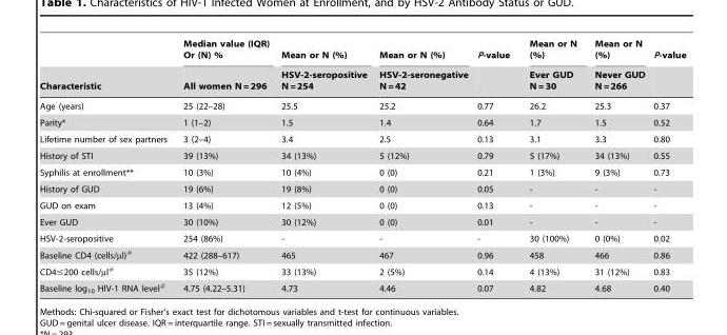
<table><thead><tr><td rowspan="2">Characteristic</td><td rowspan="2">Median value (IQR) Or (N) % All women N = 296</td><td rowspan="2">Mean or N (%) HSV-2-seropositive N = 254</td><td rowspan="2">Mean or N (%) HSV-2-seronegative N = 42</td><td rowspan="2">P-value</td><td rowspan="2">Mean or N (%) Ever GUD N = 30</td><td rowspan="2">Mean or N (%) Never GUD N = 266</td><td rowspan="2">P-value</td></tr><tr></tr></thead><tbody><tr><td>Age (years)</td><td>25 (22–28)</td><td>25.5</td><td>25.2</td><td>0.77</td><td>26.2</td><td>25.3</td><td>0.37</td></tr><tr><td>Parity*</td><td>1 (1–2)</td><td>1.5</td><td>1.4</td><td>0.64</td><td>1.7</td><td>1.5</td><td>0.52</td></tr><tr><td>Lifetime number of sex partners</td><td>3 (2–4)</td><td>3.4</td><td>2.5</td><td>0.13</td><td>3.1</td><td>3.3</td><td>0.80</td></tr><tr><td>History of STI</td><td>39 (13%)</td><td>34 (13%)</td><td>5 (12%)</td><td>0.79</td><td>5 (17%)</td><td>34 (13%)</td><td>0.55</td></tr><tr><td>Syphilis at enrollment**</td><td>10 (3%)</td><td>10 (4%)</td><td>0 (0)</td><td>0.21</td><td>1 (3%)</td><td>9 (3%)</td><td>0.73</td></tr><tr><td>History of GUD</td><td>19 (6%)</td><td>19 (8%)</td><td>0 (0)</td><td>0.05</td><td>-</td><td>-</td><td>-</td></tr><tr><td>GUD on exam</td><td>13 (4%)</td><td>12 (5%)</td><td>0 (0)</td><td>0.13</td><td>-</td><td>-</td><td>-</td></tr><tr><td>Ever GUD</td><td>30 (10%)</td><td>30 (12%)</td><td>0 (0)</td><td>0.01</td><td>-</td><td>-</td><td>-</td></tr><tr><td>HSV-2-seropositive</td><td>254 (86%)</td><td>-</td><td>-</td><td>-</td><td>30 (100%)</td><td>0 (0%)</td><td>0.02</td></tr><tr><td>Baseline CD4 (cells/µl)#</td><td>422 (288–617)</td><td>465</td><td>467</td><td>0.96</td><td>458</td><td>466</td><td>0.86</td></tr><tr><td>CD4≤200 cells/µl#</td><td>35 (12%)</td><td>33 (13%)</td><td>2 (5%)</td><td>0.14</td><td>4 (13%)</td><td>31 (12%)</td><td>0.83</td></tr><tr><td>Baseline log<sub>10</sub> HIV-1 RNA level#</td><td>4.75 (4.22–5.31)</td><td>4.73</td><td>4.46</td><td>0.07</td><td>4.82</td><td>4.68</td><td>0.40</td></tr></tbody></table>